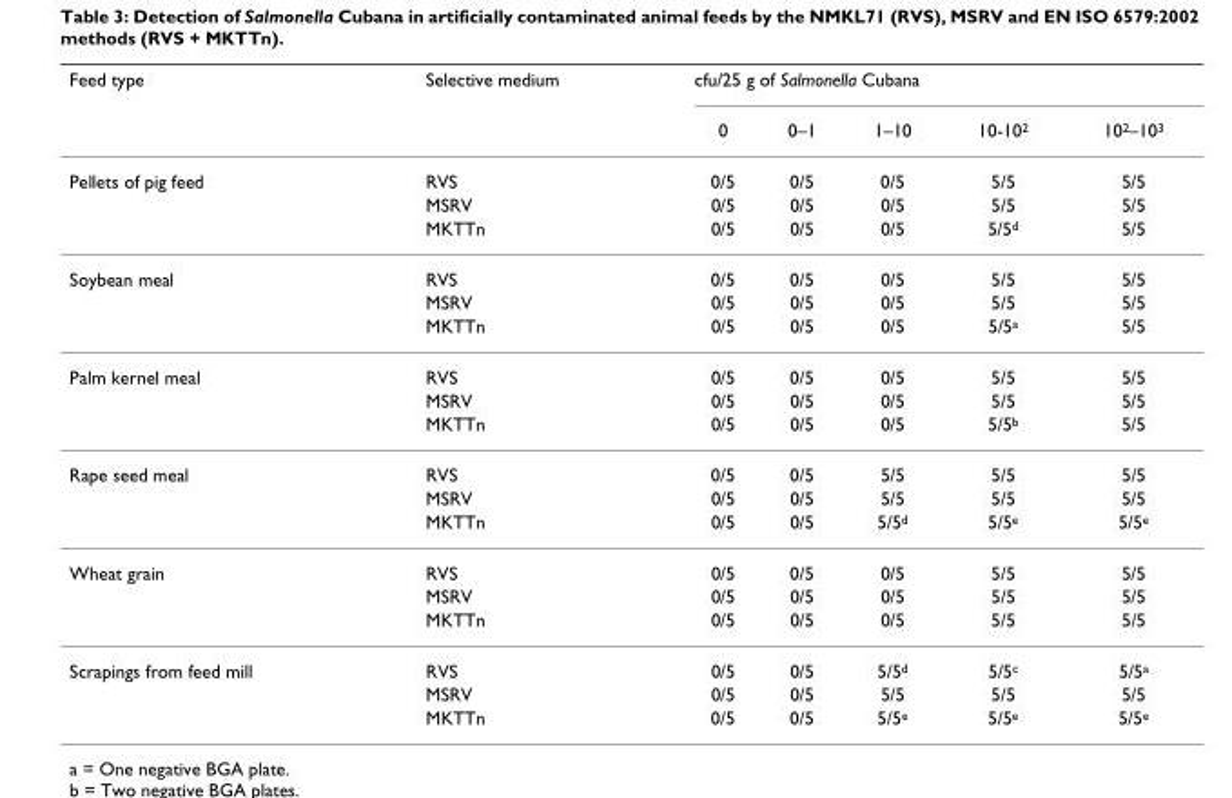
<table><thead><tr><td rowspan="2">Feed type</td><td rowspan="2">Selective medium</td><td colspan="5">cfu/25 g of Salmonella Cubana</td></tr><tr><td>0</td><td>0–1</td><td>1–10</td><td>10-10<sup>2</sup></td><td>10<sup>2</sup>–10<sup>3</sup></td></tr></thead><tbody><tr><td rowspan="3">Pellets of pig feed</td><td>RVS</td><td>0/5</td><td>0/5</td><td>0/5</td><td>5/5</td><td>5/5</td></tr><tr><td>MSRV</td><td>0/5</td><td>0/5</td><td>0/5</td><td>5/5</td><td>5/5</td></tr><tr><td>MKTTn</td><td>0/5</td><td>0/5</td><td>0/5</td><td>5/5<sup>d</sup></td><td>5/5</td></tr><tr><td rowspan="3">Soybean meal</td><td>RVS</td><td>0/5</td><td>0/5</td><td>0/5</td><td>5/5</td><td>5/5</td></tr><tr><td>MSRV</td><td>0/5</td><td>0/5</td><td>0/5</td><td>5/5</td><td>5/5</td></tr><tr><td>MKTTn</td><td>0/5</td><td>0/5</td><td>0/5</td><td>5/5<sup>a</sup></td><td>5/5</td></tr><tr><td rowspan="3">Palm kernel meal</td><td>RVS</td><td>0/5</td><td>0/5</td><td>0/5</td><td>5/5</td><td>5/5</td></tr><tr><td>MSRV</td><td>0/5</td><td>0/5</td><td>0/5</td><td>5/5</td><td>5/5</td></tr><tr><td>MKTTn</td><td>0/5</td><td>0/5</td><td>0/5</td><td>5/5<sup>b</sup></td><td>5/5</td></tr><tr><td rowspan="3">Rape seed meal</td><td>RVS</td><td>0/5</td><td>0/5</td><td>5/5</td><td>5/5</td><td>5/5</td></tr><tr><td>MSRV</td><td>0/5</td><td>0/5</td><td>5/5</td><td>5/5</td><td>5/5</td></tr><tr><td>MKTTn</td><td>0/5</td><td>0/5</td><td>5/5<sup>d</sup></td><td>5/5e</td><td>5/5e</td></tr><tr><td rowspan="3">Wheat grain</td><td>RVS</td><td>0/5</td><td>0/5</td><td>0/5</td><td>5/5</td><td>5/5</td></tr><tr><td>MSRV</td><td>0/5</td><td>0/5</td><td>0/5</td><td>5/5</td><td>5/5</td></tr><tr><td>MKTTn</td><td>0/5</td><td>0/5</td><td>0/5</td><td>5/5</td><td>5/5</td></tr><tr><td rowspan="3">Scrapings from feed mill</td><td>RVS</td><td>0/5</td><td>0/5</td><td>5/5<sup>d</sup></td><td>5/5<sup>c</sup></td><td>5/5<sup>a</sup></td></tr><tr><td>MSRV</td><td>0/5</td><td>0/5</td><td>5/5</td><td>5/5</td><td>5/5</td></tr><tr><td>MKTTn</td><td>0/5</td><td>0/5</td><td>5/5e</td><td>5/5e</td><td>5/5e</td></tr></tbody></table>